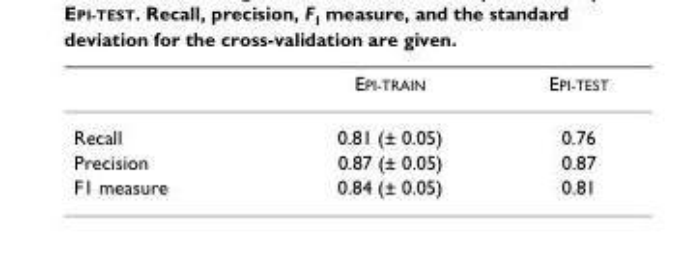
<table><thead><tr><td></td><td>EPI-TRAIN</td><td>EPI-TEST</td></tr></thead><tbody><tr><td>Recall</td><td>0.81 (± 0.05)</td><td>0.76</td></tr><tr><td>Precision</td><td>0.87 (± 0.05)</td><td>0.87</td></tr><tr><td>F1 measure</td><td>0.84 (± 0.05)</td><td>0.81</td></tr></tbody></table>